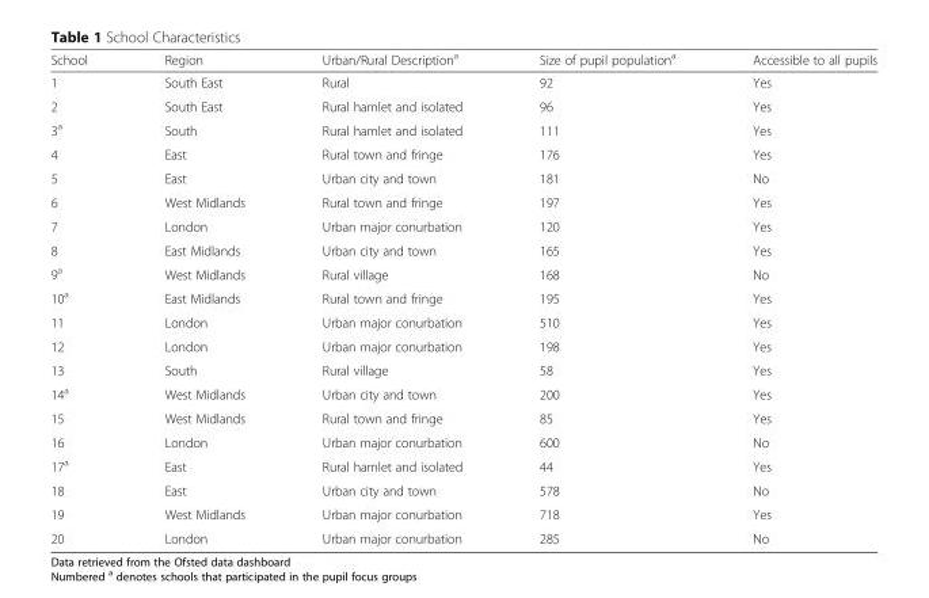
<table><thead><tr><td>School</td><td>Region</td><td>Urban/Rural Description<sup>a</sup></td><td>Size of pupil population<sup>a</sup></td><td>Accessible to all pupils</td></tr></thead><tbody><tr><td>1</td><td>South East</td><td>Rural</td><td>92</td><td>Yes</td></tr><tr><td>2</td><td>South East</td><td>Rural hamlet and isolated</td><td>96</td><td>Yes</td></tr><tr><td>3<sup>a</sup></td><td>South</td><td>Rural hamlet and isolated</td><td>111</td><td>Yes</td></tr><tr><td>4</td><td>East</td><td>Rural town and fringe</td><td>176</td><td>Yes</td></tr><tr><td>5</td><td>East</td><td>Urban city and town</td><td>181</td><td>No</td></tr><tr><td>6</td><td>West Midlands</td><td>Rural town and fringe</td><td>197</td><td>Yes</td></tr><tr><td>7</td><td>London</td><td>Urban major conurbation</td><td>120</td><td>Yes</td></tr><tr><td>8</td><td>East Midlands</td><td>Urban city and town</td><td>165</td><td>Yes</td></tr><tr><td>9<sup>a</sup></td><td>West Midlands</td><td>Rural village</td><td>168</td><td>No</td></tr><tr><td>10<sup>a</sup></td><td>East Midlands</td><td>Rural town and fringe</td><td>195</td><td>Yes</td></tr><tr><td>11</td><td>London</td><td>Urban major conurbation</td><td>510</td><td>Yes</td></tr><tr><td>12</td><td>London</td><td>Urban major conurbation</td><td>198</td><td>Yes</td></tr><tr><td>13</td><td>South</td><td>Rural village</td><td>58</td><td>Yes</td></tr><tr><td>14<sup>a</sup></td><td>West Midlands</td><td>Urban city and town</td><td>200</td><td>Yes</td></tr><tr><td>15</td><td>West Midlands</td><td>Rural town and fringe</td><td>85</td><td>Yes</td></tr><tr><td>16</td><td>London</td><td>Urban major conurbation</td><td>600</td><td>No</td></tr><tr><td>17<sup>a</sup></td><td>East</td><td>Rural hamlet and isolated</td><td>44</td><td>Yes</td></tr><tr><td>18</td><td>East</td><td>Urban city and town</td><td>578</td><td>No</td></tr><tr><td>19</td><td>West Midlands</td><td>Urban major conurbation</td><td>718</td><td>Yes</td></tr><tr><td>20</td><td>London</td><td>Urban major conurbation</td><td>285</td><td>No</td></tr></tbody></table>